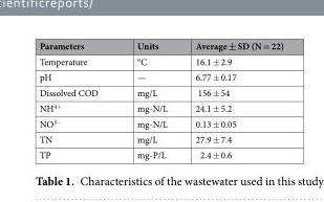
<table><thead><tr><td>Parameters</td><td>Units</td><td>Average ± SD (N = 22)</td></tr></thead><tbody><tr><td>Temperature</td><td>°C</td><td>16.1 ± 2.9</td></tr><tr><td>pH</td><td>—</td><td>6.77 ± 0.17</td></tr><tr><td>Dissolved COD</td><td>mg/L</td><td>156 ± 54</td></tr><tr><td>NH<sup>4+</sup></td><td>mg-N/L</td><td>24.1 ± 5.2</td></tr><tr><td>NO<sup>3−</sup></td><td>mg-N/L</td><td>0.13 ± 0.05</td></tr><tr><td>TN</td><td>mg/L</td><td>27.9 ± 7.4</td></tr><tr><td>TP</td><td>mg-P/L</td><td>2.4 ± 0.6</td></tr></tbody></table>